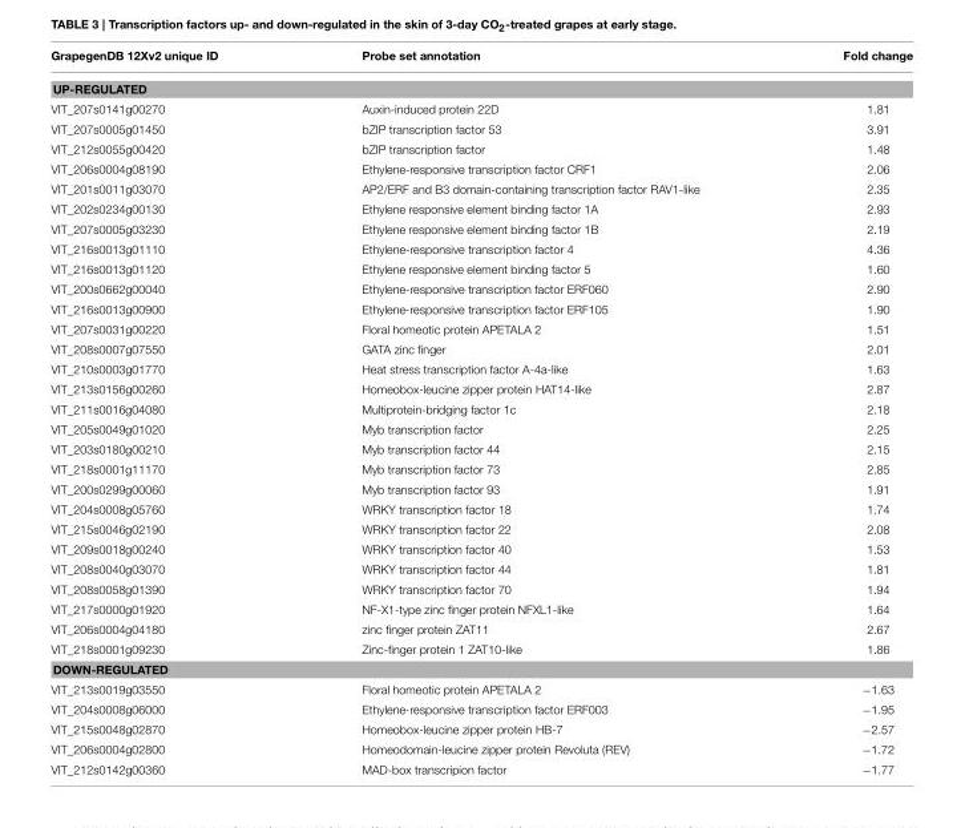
<table><thead><tr><td>GrapegenDB 12Xv2 unique ID</td><td>Probe set annotation</td><td>Fold change</td></tr></thead><tbody><tr><td colspan="3">UP-REGULATED</td></tr><tr><td>VIT_207s0141g00270</td><td>Auxin-induced protein 22D</td><td>1.81</td></tr><tr><td>VIT_207s0005g01450</td><td>bZIP transcription factor 53</td><td>3.91</td></tr><tr><td>VIT_212s0055g00420</td><td>bZIP transcription factor</td><td>1.48</td></tr><tr><td>VIT_206s0004g08190</td><td>Ethylene-responsive transcription factor CRF1</td><td>2.06</td></tr><tr><td>VIT_201s0011g03070</td><td>AP2/ERF and B3 domain-containing transcription factor RAV1-like</td><td>2.35</td></tr><tr><td>VIT_202s0234g00130</td><td>Ethylene responsive element binding factor 1A</td><td>2.93</td></tr><tr><td>VIT_207s0005g03230</td><td>Ethylene responsive element binding factor 1B</td><td>2.19</td></tr><tr><td>VIT_216s0013g01110</td><td>Ethylene-responsive transcription factor 4</td><td>4.36</td></tr><tr><td>VIT_216s0013g01120</td><td>Ethylene responsive element binding factor 5</td><td>1.60</td></tr><tr><td>VIT_200s0662g00040</td><td>Ethylene-responsive transcription factor ERF060</td><td>2.90</td></tr><tr><td>VIT_216s0013g00900</td><td>Ethylene-responsive transcription factor ERF105</td><td>1.90</td></tr><tr><td>VIT_207s0031g00220</td><td>Floral homeotic protein APETALA 2</td><td>1.51</td></tr><tr><td>VIT_208s0007g07550</td><td>GATA zinc finger</td><td>2.01</td></tr><tr><td>VIT_210s0003g01770</td><td>Heat stress transcription factor A-4a-like</td><td>1.63</td></tr><tr><td>VIT_213s0156g00260</td><td>Homeobox-leucine zipper protein HAT14-like</td><td>2.87</td></tr><tr><td>VIT_211s0016g04080</td><td>Multiprotein-bridging factor 1c</td><td>2.18</td></tr><tr><td>VIT_205s0049g01020</td><td>Myb transcription factor</td><td>2.25</td></tr><tr><td>VIT_203s0180g00210</td><td>Myb transcription factor 44</td><td>2.15</td></tr><tr><td>VIT_218s0001g11170</td><td>Myb transcription factor 73</td><td>2.85</td></tr><tr><td>VIT_200s0299g00060</td><td>Myb transcription factor 93</td><td>1.91</td></tr><tr><td>VIT_204s0008g05760</td><td>WRKY transcription factor 18</td><td>1.74</td></tr><tr><td>VIT_215s0046g02190</td><td>WRKY transcription factor 22</td><td>2.08</td></tr><tr><td>VIT_209s0018g00240</td><td>WRKY transcription factor 40</td><td>1.53</td></tr><tr><td>VIT_208s0040g03070</td><td>WRKY transcription factor 44</td><td>1.81</td></tr><tr><td>VIT_208s0058g01390</td><td>WRKY transcription factor 70</td><td>1.94</td></tr><tr><td>VIT_217s0000g01920</td><td>NF-X1-type zinc finger protein NFXL1-like</td><td>1.64</td></tr><tr><td>VIT_206s0004g04180</td><td>zinc finger protein ZAT11</td><td>2.67</td></tr><tr><td>VIT_218s0001g09230</td><td>Zinc-finger protein 1 ZAT10-like</td><td>1.86</td></tr><tr><td colspan="3">DOWN-REGULATED</td></tr><tr><td>VIT_213s0019g03550</td><td>Floral homeotic protein APETALA 2</td><td>−1.63</td></tr><tr><td>VIT_204s0008g06000</td><td>Ethylene-responsive transcription factor ERF003</td><td>−1.95</td></tr><tr><td>VIT_215s0048g02870</td><td>Homeobox-leucine zipper protein HB-7</td><td>−2.57</td></tr><tr><td>VIT_206s0004g02800</td><td>Homeodomain-leucine zipper protein Revoluta (REV)</td><td>−1.72</td></tr><tr><td>VIT_212s0142g00360</td><td>MAD-box transcripion factor</td><td>−1.77</td></tr></tbody></table>